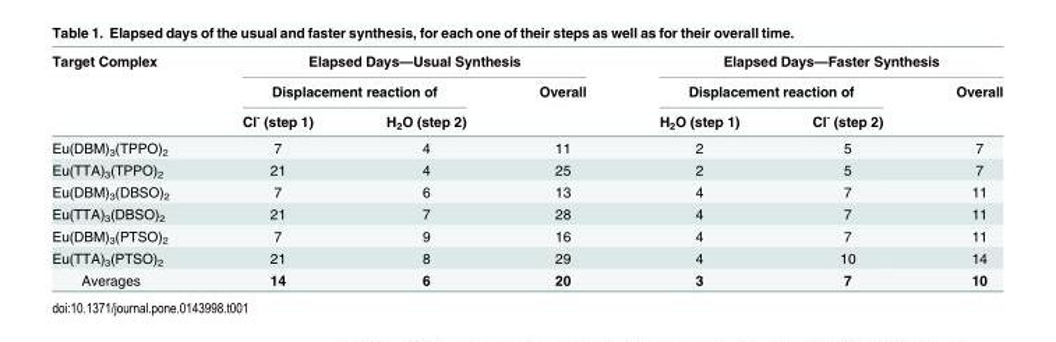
<table><thead><tr><td rowspan="3">Target Complex</td><td colspan="3">Elapsed Days—Usual Synthesis</td><td colspan="3">Elapsed Days—Faster Synthesis</td></tr><tr><td colspan="2">Displacement reaction of</td><td rowspan="2">Overall</td><td colspan="2">Displacement reaction of</td><td rowspan="2">Overall</td></tr><tr><td>Cl<sup>-</sup> (step 1)</td><td>H<sub>2</sub>O (step 2)</td><td>H<sub>2</sub>O (step 1)</td><td>Cl<sup>-</sup> (step 2)</td></tr></thead><tbody><tr><td>Eu(DBM)<sub>3</sub>(TPPO)<sub>2</sub></td><td>7</td><td>4</td><td>11</td><td>2</td><td>5</td><td>7</td></tr><tr><td>Eu(TTA)<sub>3</sub>(TPPO)<sub>2</sub></td><td>21</td><td>4</td><td>25</td><td>2</td><td>5</td><td>7</td></tr><tr><td>Eu(DBM)<sub>3</sub>(DBSO)<sub>2</sub></td><td>7</td><td>6</td><td>13</td><td>4</td><td>7</td><td>11</td></tr><tr><td>Eu(TTA)<sub>3</sub>(DBSO)<sub>2</sub></td><td>21</td><td>7</td><td>28</td><td>4</td><td>7</td><td>11</td></tr><tr><td>Eu(DBM)<sub>3</sub>(PTSO)<sub>2</sub></td><td>7</td><td>9</td><td>16</td><td>4</td><td>7</td><td>11</td></tr><tr><td>Eu(TTA)<sub>3</sub>(PTSO)<sub>2</sub></td><td>21</td><td>8</td><td>29</td><td>4</td><td>10</td><td>14</td></tr><tr><td>Averages</td><td>14</td><td>6</td><td>20</td><td>3</td><td>7</td><td>10</td></tr></tbody></table>